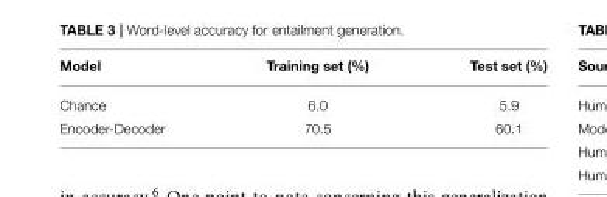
<table><thead><tr><td>Model</td><td>Training set (%)</td><td>Test set (%)</td></tr></thead><tbody><tr><td>Chance</td><td>6.0</td><td>5.9</td></tr><tr><td>Encoder-Decoder</td><td>70.5</td><td>60.1</td></tr></tbody></table>